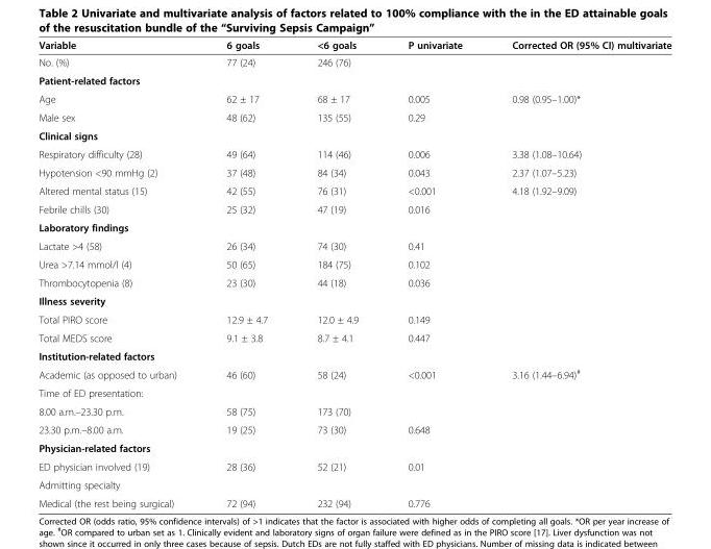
<table><thead><tr><td>Variable</td><td>6 goals</td><td>&lt;6 goals</td><td>P univariate</td><td>Corrected OR (95% CI) multivariate</td></tr></thead><tbody><tr><td>No. (%)</td><td>77 (24)</td><td>246 (76)</td><td></td><td></td></tr><tr><td colspan="5">Patient-related factors</td></tr><tr><td>Age</td><td>62 ± 17</td><td>68 ± 17</td><td>0.005</td><td>0.98 (0.95–1.00)*</td></tr><tr><td>Male sex</td><td>48 (62)</td><td>135 (55)</td><td>0.29</td><td></td></tr><tr><td colspan="5">Clinical signs</td></tr><tr><td>Respiratory difficulty (28)</td><td>49 (64)</td><td>114 (46)</td><td>0.006</td><td>3.38 (1.08–10.64)</td></tr><tr><td>Hypotension &lt;90 mmHg (2)</td><td>37 (48)</td><td>84 (34)</td><td>0.043</td><td>2.37 (1.07–5.23)</td></tr><tr><td>Altered mental status (15)</td><td>42 (55)</td><td>76 (31)</td><td>&lt;0.001</td><td>4.18 (1.92–9.09)</td></tr><tr><td>Febrile chills (30)</td><td>25 (32)</td><td>47 (19)</td><td>0.016</td><td></td></tr><tr><td colspan="5">Laboratory findings</td></tr><tr><td>Lactate &gt;4 (58)</td><td>26 (34)</td><td>74 (30)</td><td>0.41</td><td></td></tr><tr><td>Urea &gt;7.14 mmol/l (4)</td><td>50 (65)</td><td>184 (75)</td><td>0.102</td><td></td></tr><tr><td>Thrombocytopenia (8)</td><td>23 (30)</td><td>44 (18)</td><td>0.036</td><td></td></tr><tr><td colspan="5">Illness severity</td></tr><tr><td>Total PIRO score</td><td>12.9 ± 4.7</td><td>12.0 ± 4.9</td><td>0.149</td><td></td></tr><tr><td>Total MEDS score</td><td>9.1 ± 3.8</td><td>8.7 ± 4.1</td><td>0.447</td><td></td></tr><tr><td colspan="5">Institution-related factors</td></tr><tr><td>Academic (as opposed to urban)</td><td>46 (60)</td><td>58 (24)</td><td>&lt;0.001</td><td>3.16 (1.44–6.94)<sup>#</sup></td></tr><tr><td colspan="5">Time of ED presentation:</td></tr><tr><td>8.00 a.m.–23.30 p.m.</td><td>58 (75)</td><td>173 (70)</td><td></td><td></td></tr><tr><td>23.30 p.m.–8.00 a.m.</td><td>19 (25)</td><td>73 (30)</td><td>0.648</td><td></td></tr><tr><td colspan="5">Physician-related factors</td></tr><tr><td>ED physician involved (19)</td><td>28 (36)</td><td>52 (21)</td><td>0.01</td><td></td></tr><tr><td colspan="5">Admitting specialty</td></tr><tr><td>Medical (the rest being surgical)</td><td>72 (94)</td><td>232 (94)</td><td>0.776</td><td></td></tr></tbody></table>